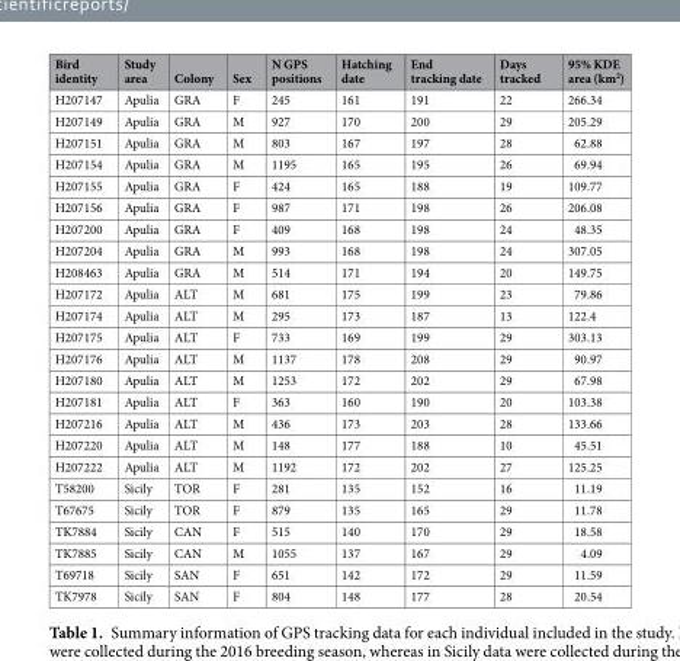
<table><thead><tr><td>Bird identity</td><td>Study area</td><td>Colony</td><td>Sex</td><td>N GPS positions</td><td>Hatching date</td><td>End tracking date</td><td>Days tracked</td><td>95% KDE area (km<sup>2</sup>)</td></tr></thead><tbody><tr><td>H207147</td><td>Apulia</td><td>GRA</td><td>F</td><td>245</td><td>161</td><td>191</td><td>22</td><td>266.34</td></tr><tr><td>H207149</td><td>Apulia</td><td>GRA</td><td>M</td><td>927</td><td>170</td><td>200</td><td>29</td><td>205.29</td></tr><tr><td>H207151</td><td>Apulia</td><td>GRA</td><td>M</td><td>803</td><td>167</td><td>197</td><td>28</td><td>62.88</td></tr><tr><td>H207154</td><td>Apulia</td><td>GRA</td><td>M</td><td>1195</td><td>165</td><td>195</td><td>26</td><td>69.94</td></tr><tr><td>H207155</td><td>Apulia</td><td>GRA</td><td>F</td><td>424</td><td>165</td><td>188</td><td>19</td><td>109.77</td></tr><tr><td>H207156</td><td>Apulia</td><td>GRA</td><td>F</td><td>987</td><td>171</td><td>198</td><td>26</td><td>206.08</td></tr><tr><td>H207200</td><td>Apulia</td><td>GRA</td><td>F</td><td>409</td><td>168</td><td>198</td><td>24</td><td>48.35</td></tr><tr><td>H207204</td><td>Apulia</td><td>GRA</td><td>M</td><td>993</td><td>168</td><td>198</td><td>24</td><td>307.05</td></tr><tr><td>H208463</td><td>Apulia</td><td>GRA</td><td>M</td><td>514</td><td>171</td><td>194</td><td>20</td><td>149.75</td></tr><tr><td>H207172</td><td>Apulia</td><td>ALT</td><td>M</td><td>681</td><td>175</td><td>199</td><td>23</td><td>79.86</td></tr><tr><td>H207174</td><td>Apulia</td><td>ALT</td><td>M</td><td>295</td><td>173</td><td>187</td><td>13</td><td>122.4</td></tr><tr><td>H207175</td><td>Apulia</td><td>ALT</td><td>F</td><td>733</td><td>169</td><td>199</td><td>29</td><td>303.13</td></tr><tr><td>H207176</td><td>Apulia</td><td>ALT</td><td>M</td><td>1137</td><td>178</td><td>208</td><td>29</td><td>90.97</td></tr><tr><td>H207180</td><td>Apulia</td><td>ALT</td><td>M</td><td>1253</td><td>172</td><td>202</td><td>29</td><td>67.98</td></tr><tr><td>H207181</td><td>Apulia</td><td>ALT</td><td>F</td><td>363</td><td>160</td><td>190</td><td>20</td><td>103.38</td></tr><tr><td>H207216</td><td>Apulia</td><td>ALT</td><td>M</td><td>436</td><td>173</td><td>203</td><td>28</td><td>133.66</td></tr><tr><td>H207220</td><td>Apulia</td><td>ALT</td><td>M</td><td>148</td><td>177</td><td>188</td><td>10</td><td>45.51</td></tr><tr><td>H207222</td><td>Apulia</td><td>ALT</td><td>M</td><td>1192</td><td>172</td><td>202</td><td>27</td><td>125.25</td></tr><tr><td>T58200</td><td>Sicily</td><td>TOR</td><td>F</td><td>281</td><td>135</td><td>152</td><td>16</td><td>11.19</td></tr><tr><td>T67675</td><td>Sicily</td><td>TOR</td><td>F</td><td>879</td><td>135</td><td>165</td><td>29</td><td>11.78</td></tr><tr><td>TK7884</td><td>Sicily</td><td>CAN</td><td>F</td><td>515</td><td>140</td><td>170</td><td>29</td><td>18.58</td></tr><tr><td>TK7885</td><td>Sicily</td><td>CAN</td><td>M</td><td>1055</td><td>137</td><td>167</td><td>29</td><td>4.09</td></tr><tr><td>T69718</td><td>Sicily</td><td>SAN</td><td>F</td><td>651</td><td>142</td><td>172</td><td>29</td><td>11.59</td></tr><tr><td>TK7978</td><td>Sicily</td><td>SAN</td><td>F</td><td>804</td><td>148</td><td>177</td><td>28</td><td>20.54</td></tr></tbody></table>